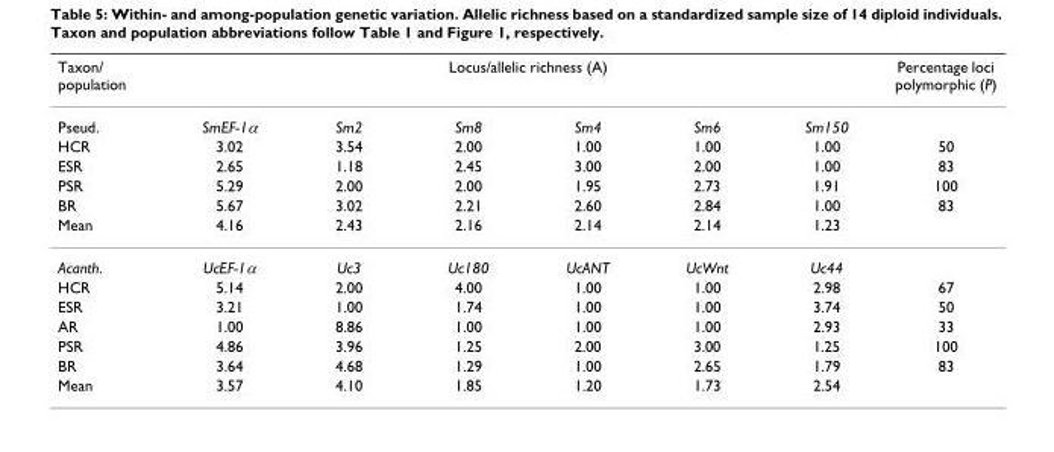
<table><thead><tr><td rowspan="2">Taxon/ population Pseud.</td><td colspan="6">Locus/allelic richness (A)</td><td rowspan="2">Percentage loci polymorphic (P)</td></tr><tr><td>SmEF-1α</td><td>Sm2</td><td>Sm8</td><td>Sm4</td><td>Sm6</td><td>Sm150</td></tr></thead><tbody><tr><td>HCR</td><td>3.02</td><td>3.54</td><td>2.00</td><td>1.00</td><td>1.00</td><td>1.00</td><td>50</td></tr><tr><td>ESR</td><td>2.65</td><td>1.18</td><td>2.45</td><td>3.00</td><td>2.00</td><td>1.00</td><td>83</td></tr><tr><td>PSR</td><td>5.29</td><td>2.00</td><td>2.00</td><td>1.95</td><td>2.73</td><td>1.91</td><td>100</td></tr><tr><td>BR</td><td>5.67</td><td>3.02</td><td>2.21</td><td>2.60</td><td>2.84</td><td>1.00</td><td>83</td></tr><tr><td>Mean</td><td>4.16</td><td>2.43</td><td>2.16</td><td>2.14</td><td>2.14</td><td>1.23</td><td></td></tr><tr><td>Acanth.</td><td>UcEF-1α</td><td>Uc3</td><td>Uc180</td><td>UcANT</td><td>UcWnt</td><td>Uc44</td><td></td></tr><tr><td>HCR</td><td>5.14</td><td>2.00</td><td>4.00</td><td>1.00</td><td>1.00</td><td>2.98</td><td>67</td></tr><tr><td>ESR</td><td>3.21</td><td>1.00</td><td>1.74</td><td>1.00</td><td>1.00</td><td>3.74</td><td>50</td></tr><tr><td>AR</td><td>1.00</td><td>8.86</td><td>1.00</td><td>1.00</td><td>1.00</td><td>2.93</td><td>33</td></tr><tr><td>PSR</td><td>4.86</td><td>3.96</td><td>1.25</td><td>2.00</td><td>3.00</td><td>1.25</td><td>100</td></tr><tr><td>BR</td><td>3.64</td><td>4.68</td><td>1.29</td><td>1.00</td><td>2.65</td><td>1.79</td><td>83</td></tr><tr><td>Mean</td><td>3.57</td><td>4.10</td><td>1.85</td><td>1.20</td><td>1.73</td><td>2.54</td><td></td></tr></tbody></table>